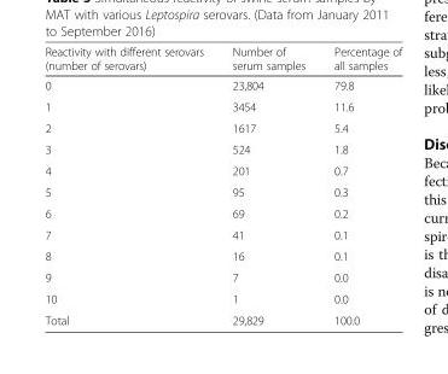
<table><thead><tr><td>Reactivity with different serovars (number of serovars)</td><td>Number of serum samples</td><td>Percentage of all samples</td></tr></thead><tbody><tr><td>0</td><td>23,804</td><td>79.8</td></tr><tr><td>1</td><td>3454</td><td>11.6</td></tr><tr><td>2</td><td>1617</td><td>5.4</td></tr><tr><td>3</td><td>524</td><td>1.8</td></tr><tr><td>4</td><td>201</td><td>0.7</td></tr><tr><td>5</td><td>95</td><td>0.3</td></tr><tr><td>6</td><td>69</td><td>0.2</td></tr><tr><td>7</td><td>41</td><td>0.1</td></tr><tr><td>8</td><td>16</td><td>0.1</td></tr><tr><td>9</td><td>7</td><td>0.0</td></tr><tr><td>10</td><td>1</td><td>0.0</td></tr><tr><td>Total</td><td>29,829</td><td>100.0</td></tr></tbody></table>